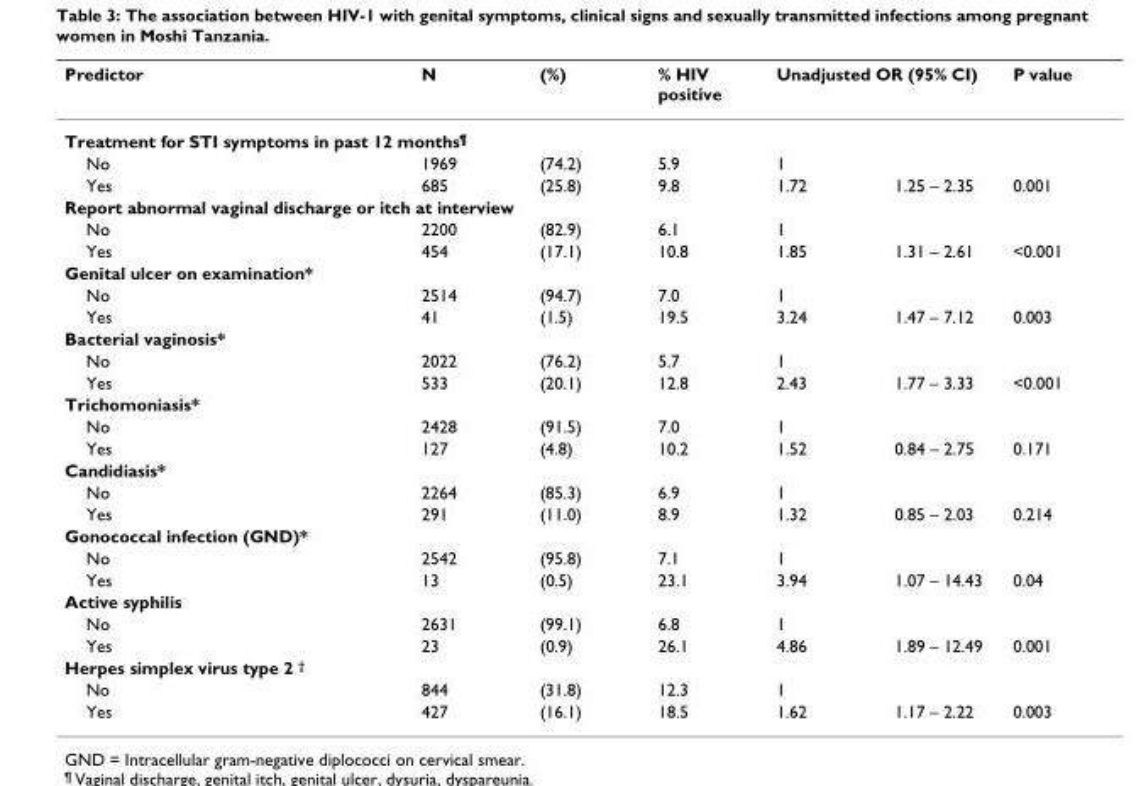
<table><thead><tr><td>Predictor</td><td>N</td><td>(%)</td><td>% HIV positive</td><td colspan="2">Unadjusted OR (95% CI)</td><td>P value</td></tr><tr><td colspan="7">Treatment for STI symptoms in past 12 months<sup>¶</sup></td></tr><tr><td>No</td><td>1969</td><td>(74.2)</td><td>5.9</td><td>1</td><td></td><td></td></tr></thead><tbody><tr><td>Yes</td><td>685</td><td>(25.8)</td><td>9.8</td><td>1.72</td><td>1.25 – 2.35</td><td>0.001</td></tr><tr><td colspan="7">Report abnormal vaginal discharge or itch at interview</td></tr><tr><td>No</td><td>2200</td><td>(82.9)</td><td>6.1</td><td>1</td><td></td><td></td></tr><tr><td>Yes</td><td>454</td><td>(17.1)</td><td>10.8</td><td>1.85</td><td>1.31 – 2.61</td><td>&lt;0.001</td></tr><tr><td colspan="7">Genital ulcer on examination*</td></tr><tr><td>No</td><td>2514</td><td>(94.7)</td><td>7.0</td><td>1</td><td></td><td></td></tr><tr><td>Yes</td><td>41</td><td>(1.5)</td><td>19.5</td><td>3.24</td><td>1.47 – 7.12</td><td>0.003</td></tr><tr><td colspan="7">Bacterial vaginosis*</td></tr><tr><td>No</td><td>2022</td><td>(76.2)</td><td>5.7</td><td>1</td><td></td><td></td></tr><tr><td>Yes</td><td>533</td><td>(20.1)</td><td>12.8</td><td>2.43</td><td>1.77 – 3.33</td><td>&lt;0.001</td></tr><tr><td colspan="7">Trichomoniasis*</td></tr><tr><td>No</td><td>2428</td><td>(91.5)</td><td>7.0</td><td>1</td><td></td><td></td></tr><tr><td>Yes</td><td>127</td><td>(4.8)</td><td>10.2</td><td>1.52</td><td>0.84 – 2.75</td><td>0.171</td></tr><tr><td colspan="7">Candidiasis*</td></tr><tr><td>No</td><td>2264</td><td>(85.3)</td><td>6.9</td><td>1</td><td></td><td></td></tr><tr><td>Yes</td><td>291</td><td>(11.0)</td><td>8.9</td><td>1.32</td><td>0.85 – 2.03</td><td>0.214</td></tr><tr><td colspan="7">Gonococcal infection (GND)*</td></tr><tr><td>No</td><td>2542</td><td>(95.8)</td><td>7.1</td><td>1</td><td></td><td></td></tr><tr><td>Yes</td><td>13</td><td>(0.5)</td><td>23.1</td><td>3.94</td><td>1.07 – 14.43</td><td>0.04</td></tr><tr><td colspan="7">Active syphilis</td></tr><tr><td>No</td><td>2631</td><td>(99.1)</td><td>6.8</td><td>1</td><td></td><td></td></tr><tr><td>Yes</td><td>23</td><td>(0.9)</td><td>26.1</td><td>4.86</td><td>1.89 – 12.49</td><td>0.001</td></tr><tr><td colspan="7">Herpes simplex virus type 2 <sup>†</sup></td></tr><tr><td>No</td><td>844</td><td>(31.8)</td><td>12.3</td><td>1</td><td></td><td></td></tr><tr><td>Yes</td><td>427</td><td>(16.1)</td><td>18.5</td><td>1.62</td><td>1.17 – 2.22</td><td>0.003</td></tr></tbody></table>